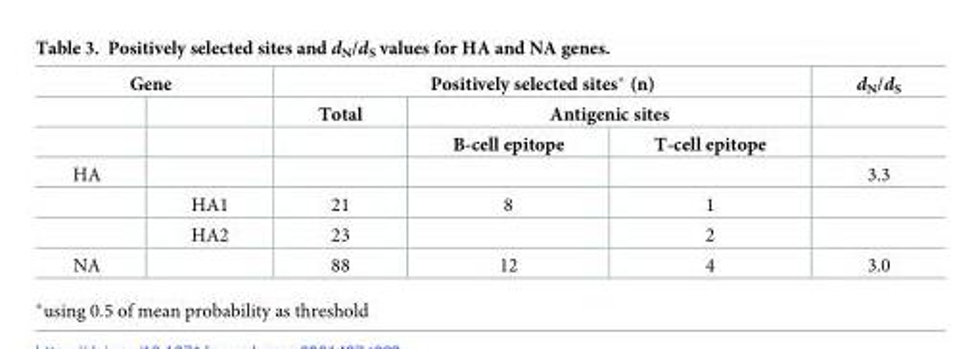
<table><thead><tr><td colspan="2">Gene</td><td colspan="3">Positively selected sites* (n)</td><td rowspan="3">d<sub>N</sub>/d<sub>S</sub></td></tr><tr><td rowspan="2"></td><td rowspan="2"></td><td rowspan="2">Total</td><td colspan="2">Antigenic sites</td></tr><tr><td>B-cell epitope</td><td>T-cell epitope</td></tr></thead><tbody><tr><td rowspan="3">HA</td><td></td><td></td><td></td><td></td><td>3.3</td></tr><tr><td>HA1</td><td>21</td><td>8</td><td>1</td><td></td></tr><tr><td>HA2</td><td>23</td><td></td><td>2</td><td></td></tr><tr><td>NA</td><td></td><td>88</td><td>12</td><td>4</td><td>3.0</td></tr></tbody></table>